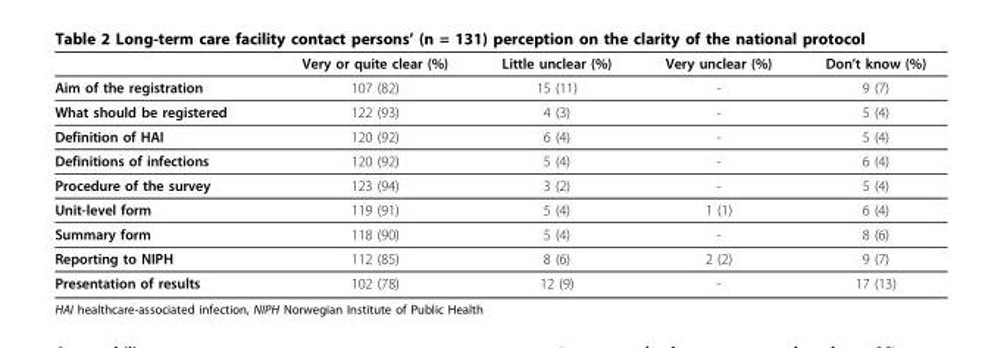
<table><thead><tr><td></td><td>Very or quite clear (%)</td><td>Little unclear (%)</td><td>Very unclear (%)</td><td>Don’t know (%)</td></tr></thead><tbody><tr><td>Aim of the registration</td><td>107 (82)</td><td>15 (11)</td><td>-</td><td>9 (7)</td></tr><tr><td>What should be registered</td><td>122 (93)</td><td>4 (3)</td><td>-</td><td>5 (4)</td></tr><tr><td>Definition of HAI</td><td>120 (92)</td><td>6 (4)</td><td>-</td><td>5 (4)</td></tr><tr><td>Definitions of infections</td><td>120 (92)</td><td>5 (4)</td><td>-</td><td>6 (4)</td></tr><tr><td>Procedure of the survey</td><td>123 (94)</td><td>3 (2)</td><td>-</td><td>5 (4)</td></tr><tr><td>Unit-level form</td><td>119 (91)</td><td>5 (4)</td><td>1 (1)</td><td>6 (4)</td></tr><tr><td>Summary form</td><td>118 (90)</td><td>5 (4)</td><td>-</td><td>8 (6)</td></tr><tr><td>Reporting to NIPH</td><td>112 (85)</td><td>8 (6)</td><td>2 (2)</td><td>9 (7)</td></tr><tr><td>Presentation of results</td><td>102 (78)</td><td>12 (9)</td><td>-</td><td>17 (13)</td></tr></tbody></table>